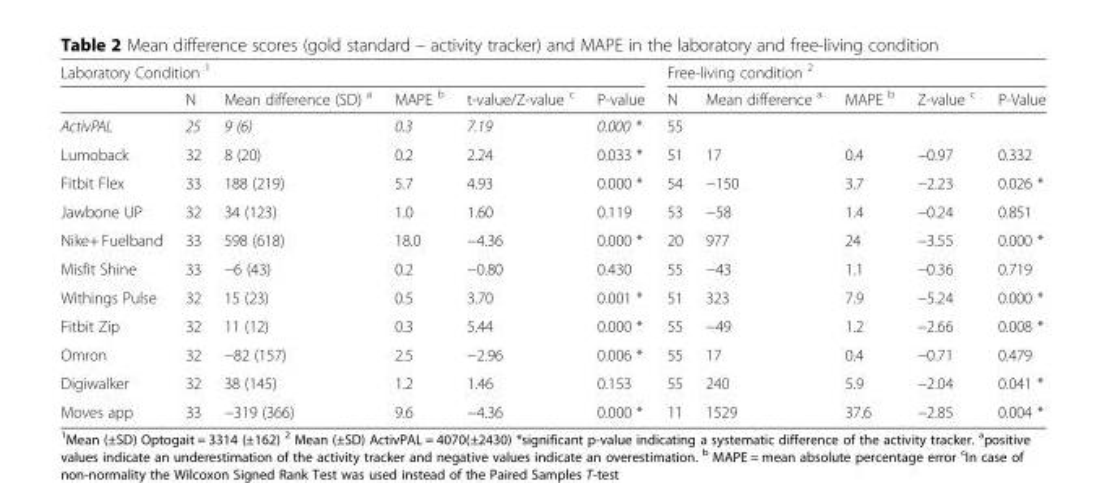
<table><thead><tr><td colspan="6">Laboratory Condition <sup>1</sup></td><td colspan="5">Free-living condition <sup>2</sup></td></tr><tr><td></td><td>N</td><td>Mean difference (SD) <sup>a</sup></td><td>MAPE <sup>b</sup></td><td>t-value/Z-value <sup>c</sup></td><td>P-value</td><td>N</td><td>Mean difference <sup>a</sup></td><td>MAPE <sup>b</sup></td><td>Z-value <sup>c</sup></td><td>P-Value</td></tr></thead><tbody><tr><td>ActivPAL</td><td>25</td><td>9 (6)</td><td>0.3</td><td>7.19</td><td>0.000 *</td><td>55</td><td></td><td></td><td></td><td></td></tr><tr><td>Lumoback</td><td>32</td><td>8 (20)</td><td>0.2</td><td>2.24</td><td>0.033 *</td><td>51</td><td>17</td><td>0.4</td><td>−0.97</td><td>0.332</td></tr><tr><td>Fitbit Flex</td><td>33</td><td>188 (219)</td><td>5.7</td><td>4.93</td><td>0.000 *</td><td>54</td><td>−150</td><td>3.7</td><td>−2.23</td><td>0.026 *</td></tr><tr><td>Jawbone UP</td><td>32</td><td>34 (123)</td><td>1.0</td><td>1.60</td><td>0.119</td><td>53</td><td>−58</td><td>1.4</td><td>−0.24</td><td>0.851</td></tr><tr><td>Nike+ Fuelband</td><td>33</td><td>598 (618)</td><td>18.0</td><td>−4.36</td><td>0.000 *</td><td>20</td><td>977</td><td>24</td><td>−3.55</td><td>0.000 *</td></tr><tr><td>Misfit Shine</td><td>33</td><td>−6 (43)</td><td>0.2</td><td>−0.80</td><td>0.430</td><td>55</td><td>−43</td><td>1.1</td><td>−0.36</td><td>0.719</td></tr><tr><td>Withings Pulse</td><td>32</td><td>15 (23)</td><td>0.5</td><td>3.70</td><td>0.001 *</td><td>51</td><td>323</td><td>7.9</td><td>−5.24</td><td>0.000 *</td></tr><tr><td>Fitbit Zip</td><td>32</td><td>11 (12)</td><td>0.3</td><td>5.44</td><td>0.000 *</td><td>55</td><td>−49</td><td>1.2</td><td>−2.66</td><td>0.008 *</td></tr><tr><td>Omron</td><td>32</td><td>−82 (157)</td><td>2.5</td><td>−2.96</td><td>0.006 *</td><td>55</td><td>17</td><td>0.4</td><td>−0.71</td><td>0.479</td></tr><tr><td>Digiwalker</td><td>32</td><td>38 (145)</td><td>1.2</td><td>1.46</td><td>0.153</td><td>55</td><td>240</td><td>5.9</td><td>−2.04</td><td>0.041 *</td></tr><tr><td>Moves app</td><td>33</td><td>−319 (366)</td><td>9.6</td><td>−4.36</td><td>0.000 *</td><td>11</td><td>1529</td><td>37.6</td><td>−2.85</td><td>0.004 *</td></tr></tbody></table>